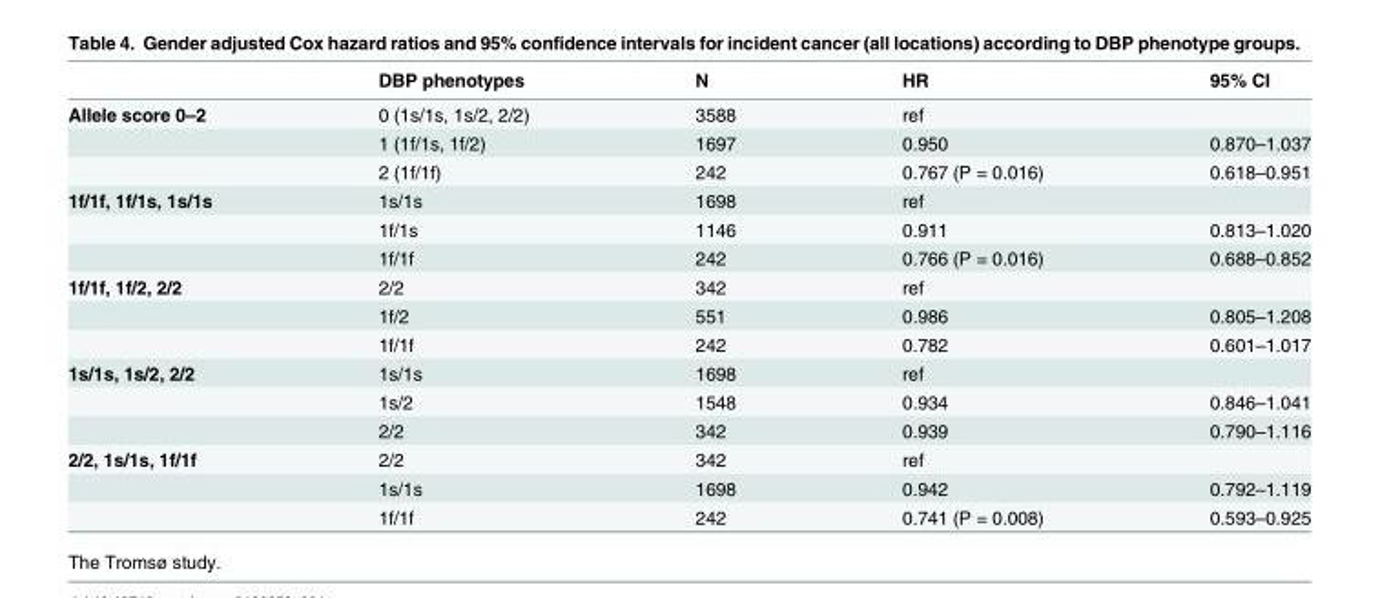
<table><thead><tr><td></td><td>DBP phenotypes</td><td>N</td><td>HR</td><td>95% CI</td></tr></thead><tbody><tr><td rowspan="3">Allele score 0–2</td><td>0 (1s/1s, 1s/2, 2/2)</td><td>3588</td><td>ref</td><td></td></tr><tr><td>1 (1f/1s, 1f/2)</td><td>1697</td><td>0.950</td><td>0.870–1.037</td></tr><tr><td>2 (1f/1f)</td><td>242</td><td>0.767 (P = 0.016)</td><td>0.618–0.951</td></tr><tr><td rowspan="3">1f/1f, 1f/1s, 1s/1s</td><td>1s/1s</td><td>1698</td><td>ref</td><td></td></tr><tr><td>1f/1s</td><td>1146</td><td>0.911</td><td>0.813–1.020</td></tr><tr><td>1f/1f</td><td>242</td><td>0.766 (P = 0.016)</td><td>0.688–0.852</td></tr><tr><td rowspan="3">1f/1f, 1f/2, 2/2</td><td>2/2</td><td>342</td><td>ref</td><td></td></tr><tr><td>1f/2</td><td>551</td><td>0.986</td><td>0.805–1.208</td></tr><tr><td>1f/1f</td><td>242</td><td>0.782</td><td>0.601–1.017</td></tr><tr><td rowspan="3">1s/1s, 1s/2, 2/2</td><td>1s/1s</td><td>1698</td><td>ref</td><td></td></tr><tr><td>1s/2</td><td>1548</td><td>0.934</td><td>0.846–1.041</td></tr><tr><td>2/2</td><td>342</td><td>0.939</td><td>0.790–1.116</td></tr><tr><td rowspan="3">2/2, 1s/1s, 1f/1f</td><td>2/2</td><td>342</td><td>ref</td><td></td></tr><tr><td>1s/1s</td><td>1698</td><td>0.942</td><td>0.792–1.119</td></tr><tr><td>1f/1f</td><td>242</td><td>0.741 (P = 0.008)</td><td>0.593–0.925</td></tr></tbody></table>